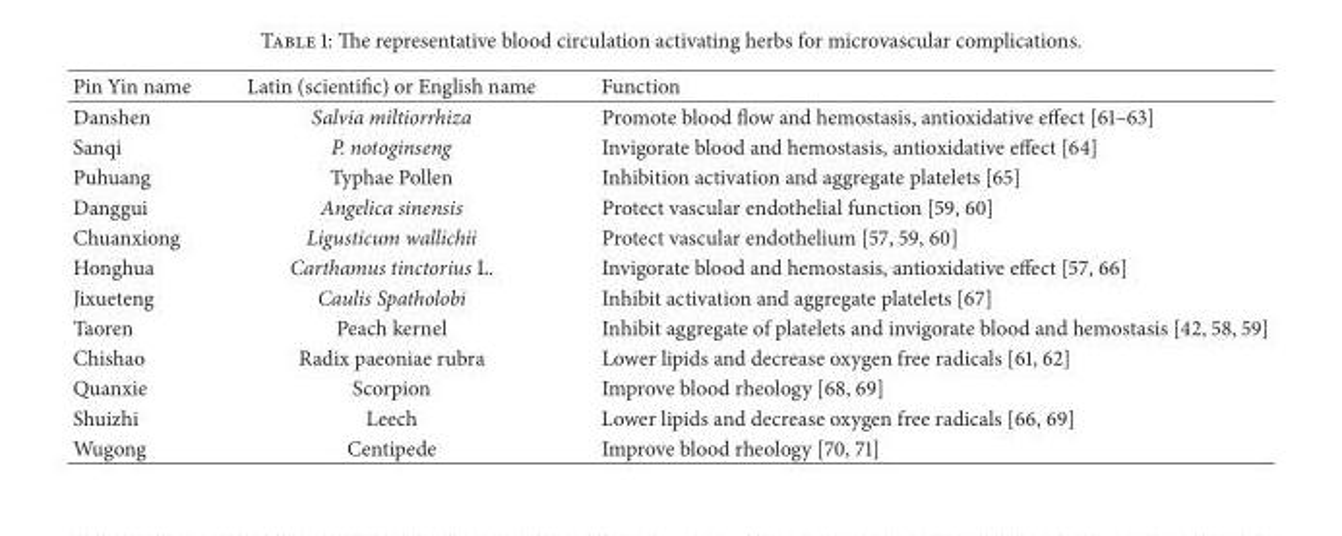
<table><thead><tr><td>Pin Yin name</td><td>Latin (scientific) or English name</td><td>Function</td></tr></thead><tbody><tr><td>Danshen</td><td>Salvia miltiorrhiza</td><td>Promote blood flow and hemostasis, antioxidative effect [61–63]</td></tr><tr><td>Sanqi</td><td>P. notoginseng</td><td>Invigorate blood and hemostasis, antioxidative effect [64]</td></tr><tr><td>Puhuang</td><td>Typhae Pollen</td><td>Inhibition activation and aggregate platelets [65]</td></tr><tr><td>Danggui</td><td>Angelica sinensis</td><td>Protect vascular endothelial function [59, 60]</td></tr><tr><td>Chuanxiong</td><td>Ligusticum wallichii</td><td>Protect vascular endothelium [57, 59, 60]</td></tr><tr><td>Honghua</td><td>Carthamus tinctorius L.</td><td>Invigorate blood and hemostasis, antioxidative effect [57, 66]</td></tr><tr><td>Jixueteng</td><td>Caulis Spatholobi</td><td>Inhibit activation and aggregate platelets [67]</td></tr><tr><td>Taoren</td><td>Peach kernel</td><td>Inhibit aggregate of platelets and invigorate blood and hemostasis [42, 58, 59]</td></tr><tr><td>Chishao</td><td>Radix paeoniae rubra</td><td>Lower lipids and decrease oxygen free radicals [61, 62]</td></tr><tr><td>Quanxie</td><td>Scorpion</td><td>Improve blood rheology [68, 69]</td></tr><tr><td>Shuizhi</td><td>Leech</td><td>Lower lipids and decrease oxygen free radicals [66, 69]</td></tr><tr><td>Wugong</td><td>Centipede</td><td>Improve blood rheology [70, 71]</td></tr></tbody></table>